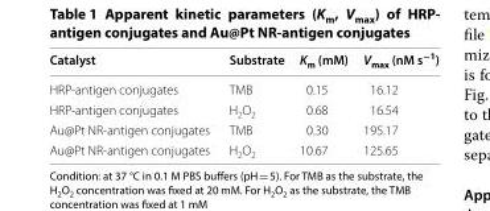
<table><thead><tr><td>Catalyst</td><td>Substrate</td><td>K<sub>m</sub> (mM)</td><td>V<sub>max</sub> (nM s<sup>−1</sup>)</td></tr></thead><tbody><tr><td>HRP-antigen conjugates</td><td>TMB</td><td>0.15</td><td>16.12</td></tr><tr><td>HRP-antigen conjugates</td><td>H<sub>2</sub>O<sub>2</sub></td><td>0.68</td><td>16.54</td></tr><tr><td>Au@Pt NR-antigen conjugates</td><td>TMB</td><td>0.30</td><td>195.17</td></tr><tr><td>Au@Pt NR-antigen conjugates</td><td>H<sub>2</sub>O<sub>2</sub></td><td>10.67</td><td>125.65</td></tr></tbody></table>